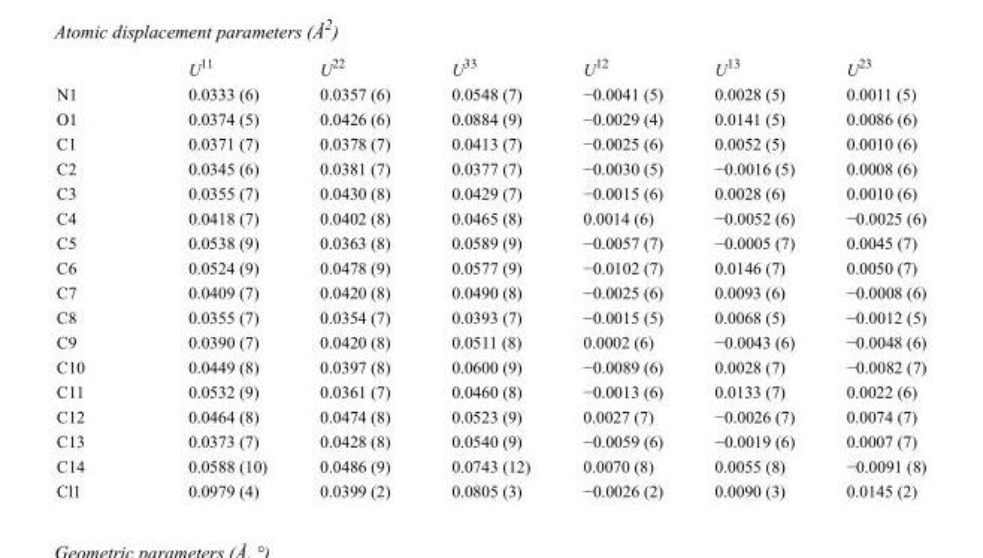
<table><thead><tr><td></td><td>U<sup>11</sup></td><td>U<sup>22</sup></td><td>U<sup>33</sup></td><td>U<sup>12</sup></td><td>U<sup>13</sup></td><td>U<sup>23</sup></td></tr></thead><tbody><tr><td>N1</td><td>0.0333 (6)</td><td>0.0357 (6)</td><td>0.0548 (7)</td><td>−0.0041 (5)</td><td>0.0028 (5)</td><td>0.0011 (5)</td></tr><tr><td>O1</td><td>0.0374 (5)</td><td>0.0426 (6)</td><td>0.0884 (9)</td><td>−0.0029 (4)</td><td>0.0141 (5)</td><td>0.0086 (6)</td></tr><tr><td>C1</td><td>0.0371 (7)</td><td>0.0378 (7)</td><td>0.0413 (7)</td><td>−0.0025 (6)</td><td>0.0052 (5)</td><td>0.0010 (6)</td></tr><tr><td>C2</td><td>0.0345 (6)</td><td>0.0381 (7)</td><td>0.0377 (7)</td><td>−0.0030 (5)</td><td>−0.0016 (5)</td><td>0.0008 (6)</td></tr><tr><td>C3</td><td>0.0355 (7)</td><td>0.0430 (8)</td><td>0.0429 (7)</td><td>−0.0015 (6)</td><td>0.0028 (6)</td><td>0.0010 (6)</td></tr><tr><td>C4</td><td>0.0418 (7)</td><td>0.0402 (8)</td><td>0.0465 (8)</td><td>0.0014 (6)</td><td>−0.0052 (6)</td><td>−0.0025 (6)</td></tr><tr><td>C5</td><td>0.0538 (9)</td><td>0.0363 (8)</td><td>0.0589 (9)</td><td>−0.0057 (7)</td><td>−0.0005 (7)</td><td>0.0045 (7)</td></tr><tr><td>C6</td><td>0.0524 (9)</td><td>0.0478 (9)</td><td>0.0577 (9)</td><td>−0.0102 (7)</td><td>0.0146 (7)</td><td>0.0050 (7)</td></tr><tr><td>C7</td><td>0.0409 (7)</td><td>0.0420 (8)</td><td>0.0490 (8)</td><td>−0.0025 (6)</td><td>0.0093 (6)</td><td>−0.0008 (6)</td></tr><tr><td>C8</td><td>0.0355 (7)</td><td>0.0354 (7)</td><td>0.0393 (7)</td><td>−0.0015 (5)</td><td>0.0068 (5)</td><td>−0.0012 (5)</td></tr><tr><td>C9</td><td>0.0390 (7)</td><td>0.0420 (8)</td><td>0.0511 (8)</td><td>0.0002 (6)</td><td>−0.0043 (6)</td><td>−0.0048 (6)</td></tr><tr><td>C10</td><td>0.0449 (8)</td><td>0.0397 (8)</td><td>0.0600 (9)</td><td>−0.0089 (6)</td><td>0.0028 (7)</td><td>−0.0082 (7)</td></tr><tr><td>C11</td><td>0.0532 (9)</td><td>0.0361 (7)</td><td>0.0460 (8)</td><td>−0.0013 (6)</td><td>0.0133 (7)</td><td>0.0022 (6)</td></tr><tr><td>C12</td><td>0.0464 (8)</td><td>0.0474 (8)</td><td>0.0523 (9)</td><td>0.0027 (7)</td><td>−0.0026 (7)</td><td>0.0074 (7)</td></tr><tr><td>C13</td><td>0.0373 (7)</td><td>0.0428 (8)</td><td>0.0540 (9)</td><td>−0.0059 (6)</td><td>−0.0019 (6)</td><td>0.0007 (7)</td></tr><tr><td>C14</td><td>0.0588 (10)</td><td>0.0486 (9)</td><td>0.0743 (12)</td><td>0.0070 (8)</td><td>0.0055 (8)</td><td>−0.0091 (8)</td></tr><tr><td>Cl1</td><td>0.0979 (4)</td><td>0.0399 (2)</td><td>0.0805 (3)</td><td>−0.0026 (2)</td><td>0.0090 (3)</td><td>0.0145 (2)</td></tr></tbody></table>